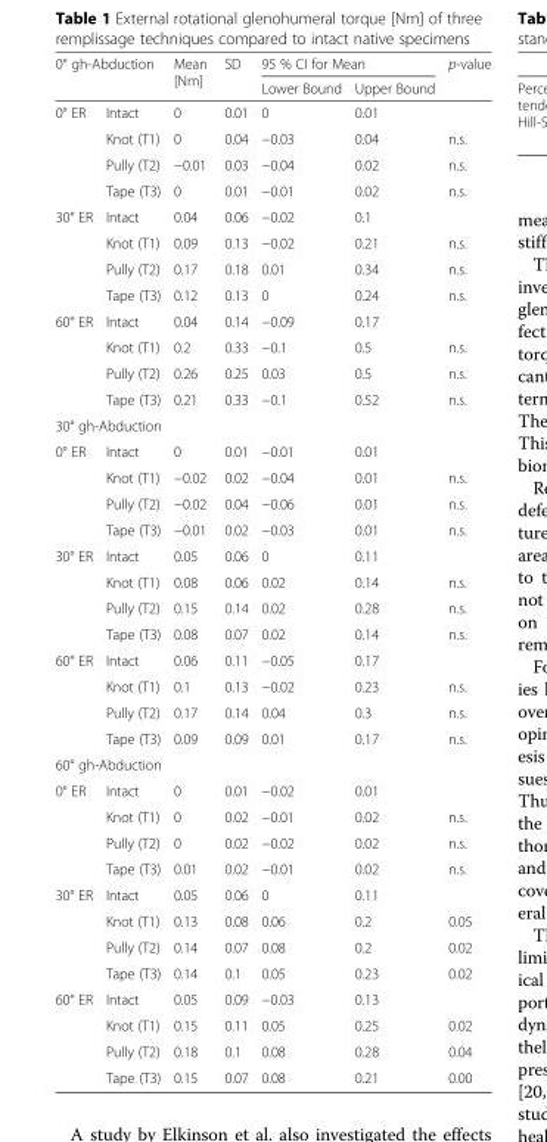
<table><thead><tr><td rowspan="2" colspan="2">0° gh-Abduction</td><td rowspan="3">Mean [Nm] 0</td><td rowspan="3">SD 0.01</td><td colspan="2">95 % CI for Mean</td><td rowspan="3">p-value</td></tr><tr><td rowspan="2">Lower Bound 0</td><td rowspan="2">Upper Bound 0.01</td></tr><tr><td>0° ER</td><td>Intact</td></tr></thead><tbody><tr><td></td><td>Knot (T1)</td><td>0</td><td>0.04</td><td>−0.03</td><td>0.04</td><td>n.s.</td></tr><tr><td></td><td>Pully (T2)</td><td>−0.01</td><td>0.03</td><td>−0.04</td><td>0.02</td><td>n.s.</td></tr><tr><td></td><td>Tape (T3)</td><td>0</td><td>0.01</td><td>−0.01</td><td>0.02</td><td>n.s.</td></tr><tr><td rowspan="4">30° ER</td><td>Intact</td><td>0.04</td><td>0.06</td><td>−0.02</td><td>0.1</td><td></td></tr><tr><td>Knot (T1)</td><td>0.09</td><td>0.13</td><td>−0.02</td><td>0.21</td><td>n.s.</td></tr><tr><td>Pully (T2)</td><td>0.17</td><td>0.18</td><td>0.01</td><td>0.34</td><td>n.s.</td></tr><tr><td>Tape (T3)</td><td>0.12</td><td>0.13</td><td>0</td><td>0.24</td><td>n.s.</td></tr><tr><td rowspan="4">60° ER</td><td>Intact</td><td>0.04</td><td>0.14</td><td>−0.09</td><td>0.17</td><td></td></tr><tr><td>Knot (T1)</td><td>0.2</td><td>0.33</td><td>−0.1</td><td>0.5</td><td>n.s.</td></tr><tr><td>Pully (T2)</td><td>0.26</td><td>0.25</td><td>0.03</td><td>0.5</td><td>n.s.</td></tr><tr><td>Tape (T3)</td><td>0.21</td><td>0.33</td><td>−0.1</td><td>0.52</td><td>n.s.</td></tr><tr><td colspan="7">30° gh-Abduction</td></tr><tr><td rowspan="4">0° ER</td><td>Intact</td><td>0</td><td>0.01</td><td>−0.01</td><td>0.01</td><td></td></tr><tr><td>Knot (T1)</td><td>−0.02</td><td>0.02</td><td>−0.04</td><td>0.01</td><td>n.s.</td></tr><tr><td>Pully (T2)</td><td>−0.02</td><td>0.04</td><td>−0.06</td><td>0.01</td><td>n.s.</td></tr><tr><td>Tape (T3)</td><td>−0.01</td><td>0.02</td><td>−0.03</td><td>0.01</td><td>n.s.</td></tr><tr><td rowspan="4">30° ER</td><td>Intact</td><td>0.05</td><td>0.06</td><td>0</td><td>0.11</td><td></td></tr><tr><td>Knot (T1)</td><td>0.08</td><td>0.06</td><td>0.02</td><td>0.14</td><td>n.s.</td></tr><tr><td>Pully (T2)</td><td>0.15</td><td>0.14</td><td>0.02</td><td>0.28</td><td>n.s.</td></tr><tr><td>Tape (T3)</td><td>0.08</td><td>0.07</td><td>0.02</td><td>0.14</td><td>n.s.</td></tr><tr><td rowspan="4">60° ER</td><td>Intact</td><td>0.06</td><td>0.11</td><td>−0.05</td><td>0.17</td><td></td></tr><tr><td>Knot (T1)</td><td>0.1</td><td>0.13</td><td>−0.02</td><td>0.23</td><td>n.s.</td></tr><tr><td>Pully (T2)</td><td>0.17</td><td>0.14</td><td>0.04</td><td>0.3</td><td>n.s.</td></tr><tr><td>Tape (T3)</td><td>0.09</td><td>0.09</td><td>0.01</td><td>0.17</td><td>n.s.</td></tr><tr><td colspan="7">60° gh-Abduction</td></tr><tr><td rowspan="4">0° ER</td><td>Intact</td><td>0</td><td>0.01</td><td>−0.02</td><td>0.01</td><td></td></tr><tr><td>Knot (T1)</td><td>0</td><td>0.02</td><td>−0.01</td><td>0.02</td><td>n.s.</td></tr><tr><td>Pully (T2)</td><td>0</td><td>0.02</td><td>−0.02</td><td>0.02</td><td>n.s.</td></tr><tr><td>Tape (T3)</td><td>0.01</td><td>0.02</td><td>−0.01</td><td>0.02</td><td>n.s.</td></tr><tr><td rowspan="4">30° ER</td><td>Intact</td><td>0.05</td><td>0.06</td><td>0</td><td>0.11</td><td></td></tr><tr><td>Knot (T1)</td><td>0.13</td><td>0.08</td><td>0.06</td><td>0.2</td><td>0.05</td></tr><tr><td>Pully (T2)</td><td>0.14</td><td>0.07</td><td>0.08</td><td>0.2</td><td>0.02</td></tr><tr><td>Tape (T3)</td><td>0.14</td><td>0.1</td><td>0.05</td><td>0.23</td><td>0.02</td></tr><tr><td rowspan="4">60° ER</td><td>Intact</td><td>0.05</td><td>0.09</td><td>−0.03</td><td>0.13</td><td></td></tr><tr><td>Knot (T1)</td><td>0.15</td><td>0.11</td><td>0.05</td><td>0.25</td><td>0.02</td></tr><tr><td>Pully (T2)</td><td>0.18</td><td>0.1</td><td>0.08</td><td>0.28</td><td>0.04</td></tr><tr><td>Tape (T3)</td><td>0.15</td><td>0.07</td><td>0.08</td><td>0.21</td><td>0.00</td></tr></tbody></table>